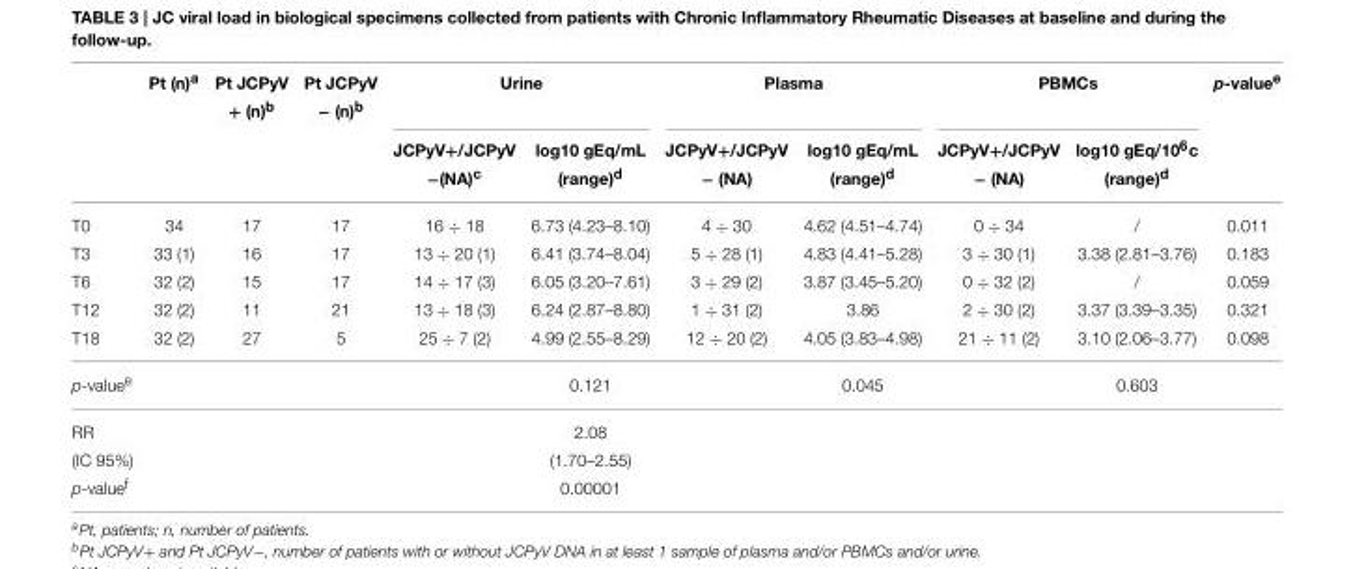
<table><thead><tr><td rowspan="2"></td><td rowspan="2">Pt (n)<sup>a</sup></td><td rowspan="2">Pt JCPyV + (n)<sup>b</sup></td><td rowspan="2">Pt JCPyV − (n)<sup>b</sup></td><td colspan="2">Urine</td><td colspan="2">Plasma</td><td colspan="2">PBMCs</td><td rowspan="2">p-value<sup>e</sup></td></tr><tr><td>JCPyV+/JCPyV −(NA)<sup>c</sup></td><td>log10 gEq/mL (range)<sup>d</sup></td><td>JCPyV+/JCPyV − (NA)</td><td>log10 gEq/mL (range)<sup>d</sup></td><td>JCPyV+/JCPyV − (NA)</td><td>log10 gEq/10<sup>6</sup>c (range)<sup>d</sup></td></tr></thead><tbody><tr><td>T0</td><td>34</td><td>17</td><td>17</td><td>16 ÷ 18</td><td>6.73 (4.23–8.10)</td><td>4 ÷ 30</td><td>4.62 (4.51–4.74)</td><td>0 ÷ 34</td><td>/</td><td>0.011</td></tr><tr><td>T3</td><td>33 (1)</td><td>16</td><td>17</td><td>13 ÷ 20 (1)</td><td>6.41 (3.74–8.04)</td><td>5 ÷ 28 (1)</td><td>4.83 (4.41–5.28)</td><td>3 ÷ 30 (1)</td><td>3.38 (2.81–3.76)</td><td>0.183</td></tr><tr><td>T6</td><td>32 (2)</td><td>15</td><td>17</td><td>14 ÷ 17 (3)</td><td>6.05 (3.20–7.61)</td><td>3 ÷ 29 (2)</td><td>3.87 (3.45–5.20)</td><td>0 ÷ 32 (2)</td><td>/</td><td>0.059</td></tr><tr><td>T12</td><td>32 (2)</td><td>11</td><td>21</td><td>13 ÷ 18 (3)</td><td>6.24 (2.87–8.80)</td><td>1 ÷ 31 (2)</td><td>3.86</td><td>2 ÷ 30 (2)</td><td>3.37 (3.39–3.35)</td><td>0.321</td></tr><tr><td>T18</td><td>32 (2)</td><td>27</td><td>5</td><td>25 ÷ 7 (2)</td><td>4.99 (2.55–8.29)</td><td>12 ÷ 20 (2)</td><td>4.05 (3.83–4.98)</td><td>21 ÷ 11 (2)</td><td>3.10 (2.06–3.77)</td><td>0.098</td></tr><tr><td>p-value<sup>e</sup></td><td></td><td></td><td></td><td></td><td>0.121</td><td></td><td>0.045</td><td></td><td>0.603</td><td></td></tr><tr><td>RR</td><td></td><td></td><td></td><td></td><td>2.08</td><td></td><td></td><td></td><td></td><td></td></tr><tr><td>(IC 95%)</td><td></td><td></td><td></td><td></td><td>(1.70–2.55)</td><td></td><td></td><td></td><td></td><td></td></tr><tr><td>p-value<sup>f</sup></td><td></td><td></td><td></td><td></td><td>0.00001</td><td></td><td></td><td></td><td></td><td></td></tr></tbody></table>